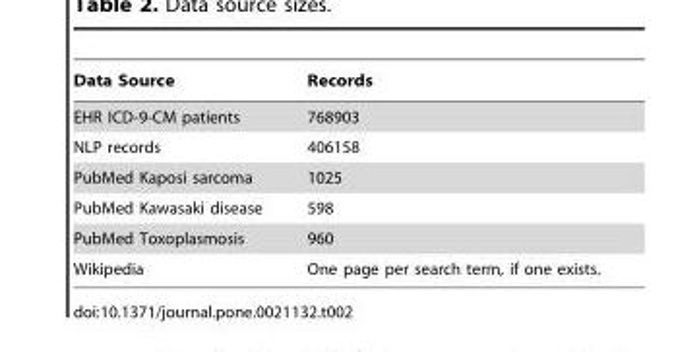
<table><thead><tr><td>Data Source</td><td>Records</td></tr></thead><tbody><tr><td>EHR ICD-9-CM patients</td><td>768903</td></tr><tr><td>NLP records</td><td>406158</td></tr><tr><td>PubMed Kaposi sarcoma</td><td>1025</td></tr><tr><td>PubMed Kawasaki disease</td><td>598</td></tr><tr><td>PubMed Toxoplasmosis</td><td>960</td></tr><tr><td>Wikipedia</td><td>One page per search term, if one exists.</td></tr></tbody></table>